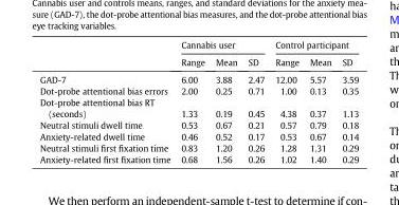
<table><thead><tr><td rowspan="2"></td><td colspan="3">Cannabis user</td><td colspan="3">Control participant</td></tr><tr><td>Range</td><td>Mean</td><td>SD</td><td>Range</td><td>Mean</td><td>SD</td></tr></thead><tbody><tr><td>GAD-7</td><td>6.00</td><td>3.88</td><td>2.47</td><td>12.00</td><td>5.57</td><td>3.59</td></tr><tr><td>Dot-probe attentional bias errors</td><td>2.00</td><td>0.25</td><td>0.71</td><td>1.00</td><td>0.13</td><td>0.35</td></tr><tr><td>Dot-probe attentional bias RT (seconds)</td><td>1.33</td><td>0.19</td><td>0.45</td><td>4.38</td><td>0.37</td><td>1.13</td></tr><tr><td>Neutral stimuli dwell time</td><td>0.53</td><td>0.67</td><td>0.21</td><td>0.57</td><td>0.79</td><td>0.18</td></tr><tr><td>Anxiety-related dwell time</td><td>0.46</td><td>0.52</td><td>0.17</td><td>0.53</td><td>0.67</td><td>0.14</td></tr><tr><td>Neutral stimuli first fixation time</td><td>0.83</td><td>1.20</td><td>0.26</td><td>1.28</td><td>1.31</td><td>0.29</td></tr><tr><td>Anxiety-related first fixation time</td><td>0.68</td><td>1.56</td><td>0.26</td><td>1.02</td><td>1.40</td><td>0.29</td></tr></tbody></table>